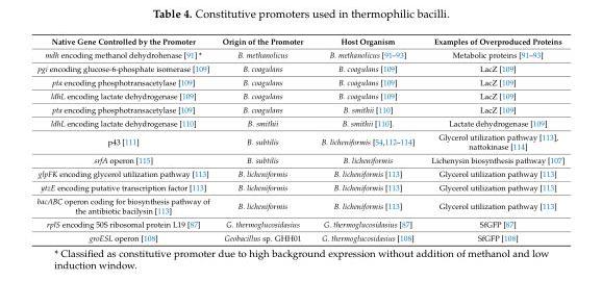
<table><thead><tr><td>Native Gene Controlled by the Promoter</td><td>Origin of the Promoter</td><td>Host Organism</td><td>Examples of Overproduced Proteins</td></tr></thead><tbody><tr><td>mdh encoding methanol dehydrohenase [91] *</td><td>B. methanolicus</td><td>B. methanolicus [91–93]</td><td>Metabolic proteins [91–93]</td></tr><tr><td>pgi encoding glucose-6-phosphate isomerase [109]</td><td>B. coagulans</td><td>B. coagulans [109]</td><td>LacZ [109]</td></tr><tr><td>pta encoding phosphotransacetylase [109]</td><td>B. coagulans</td><td>B. coagulans [109]</td><td>LacZ [109]</td></tr><tr><td>ldhL encoding lactate dehydrogenase [109]</td><td>B. coagulans</td><td>B. coagulans [109]</td><td>LacZ [109]</td></tr><tr><td>pta encoding phosphotransacetylase [109]</td><td>B. coagulans</td><td>B. smithii [110]</td><td>LacZ [109]</td></tr><tr><td>ldhL encoding lactate dehydrogenase [110]</td><td>B. smithii</td><td>B. smithii [110].</td><td>Lactate dehydrogenase [109]</td></tr><tr><td>p43 [111]</td><td>B. subtilis</td><td>B. licheniformis [54,112–114]</td><td>Glycerol utilization pathway [113], nattokinase [114]</td></tr><tr><td>srfA operon [115]</td><td>B. subtilis</td><td>B. licheniformis</td><td>Lichenysin biosynthesis pathway [107]</td></tr><tr><td>glpFK encoding glycerol utilization pathway [113]</td><td>B. licheniformis</td><td>B. licheniformis [113]</td><td>Glycerol utilization pathway [113]</td></tr><tr><td>ytzE encoding putative transcription factor [113]</td><td>B. licheniformis</td><td>B. licheniformis [113]</td><td>Glycerol utilization pathway [113]</td></tr><tr><td>bacABC operon coding for biosynthesis pathway of the antibiotic bacilysin [113]</td><td>B. licheniformis</td><td>B. licheniformis [113]</td><td>Glycerol utilization pathway [113]</td></tr><tr><td>rplS encoding 50S ribosomal protein L19 [87]</td><td>G. thermoglucosidasius</td><td>G. thermoglucosidasius [87]</td><td>SfGFP [87]</td></tr><tr><td>groESL operon [108]</td><td>Geobacillus sp. GHH01</td><td>G. thermoglucosidasius [108]</td><td>SfGFP [108]</td></tr></tbody></table>